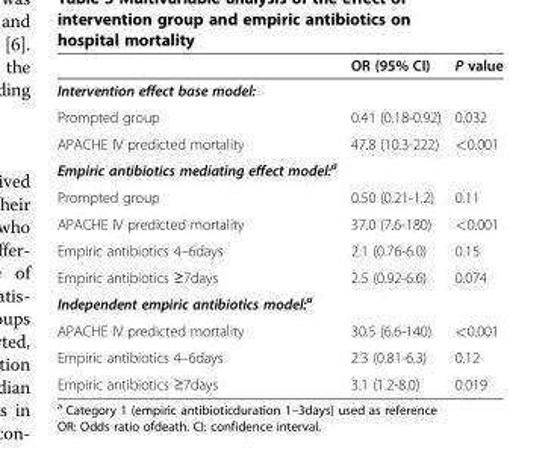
<table><thead><tr><td></td><td>OR (95% CI)</td><td>P value</td></tr></thead><tbody><tr><td colspan="3">Intervention effect base model:</td></tr><tr><td>Prompted group</td><td>0.41 (0.18-0.92)</td><td>0.032</td></tr><tr><td>APACHE IV predicted mortality</td><td>47.8 (10.3-222)</td><td>&lt;0.001</td></tr><tr><td colspan="3">Empiric antibiotics mediating effect model:<sup>a</sup></td></tr><tr><td>Prompted group</td><td>0.50 (0.21-1.2)</td><td>0.11</td></tr><tr><td>APACHE IV predicted mortality</td><td>37.0 (7.6-180)</td><td>&lt;0.001</td></tr><tr><td>Empiric antibiotics 4–6days</td><td>2.1 (0.76-6.0)</td><td>0.15</td></tr><tr><td>Empiric antibiotics ≥7days</td><td>2.5 (0.92-6.6)</td><td>0.074</td></tr><tr><td colspan="3">Independent empiric antibiotics model:<sup>a</sup></td></tr><tr><td>APACHE IV predicted mortality</td><td>30.5 (6.6-140)</td><td>&lt;0.001</td></tr><tr><td>Empiric antibiotics 4–6days</td><td>2.3 (0.81-6.3)</td><td>0.12</td></tr><tr><td>Empiric antibiotics ≥7days</td><td>3.1 (1.2-8.0)</td><td>0.019</td></tr></tbody></table>